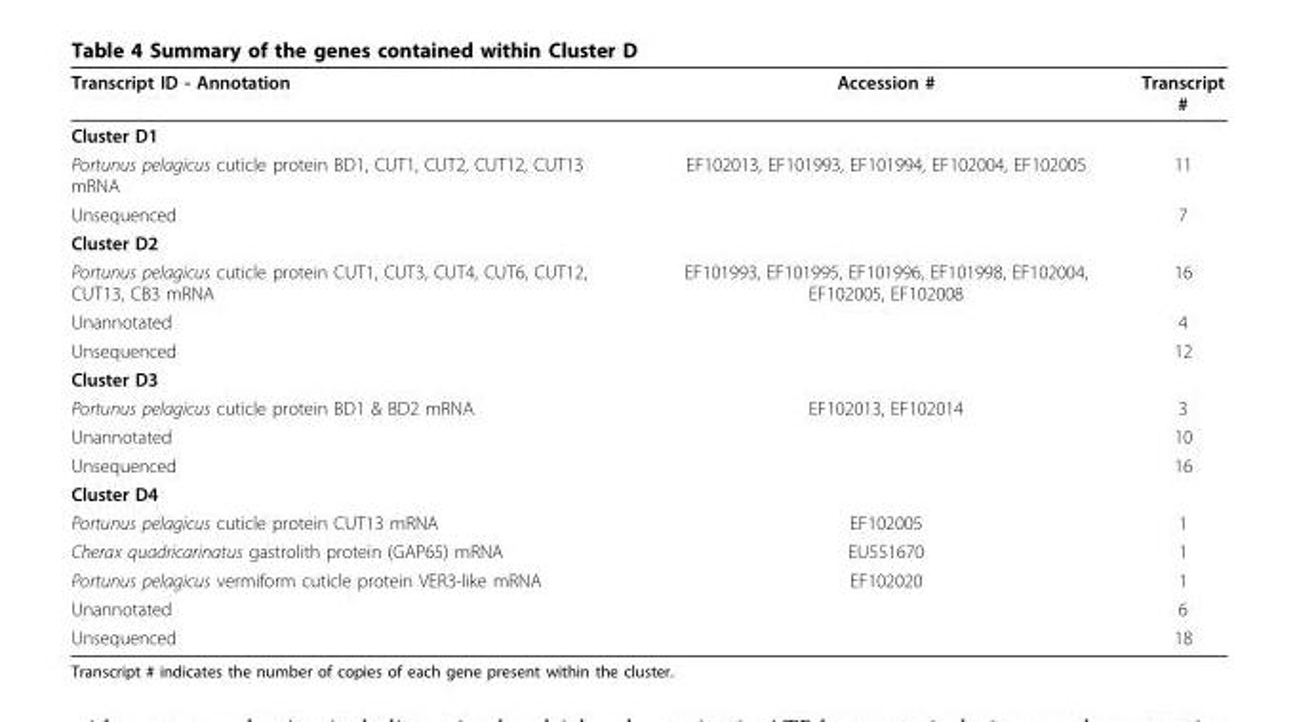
<table><thead><tr><td>Transcript ID - Annotation</td><td>Accession #</td><td>Transcript #</td></tr></thead><tbody><tr><td colspan="3">Cluster D1</td></tr><tr><td>Portunus pelagicus cuticle protein BD1, CUT1, CUT2, CUT12, CUT13 mRNA</td><td>EF102013, EF101993, EF101994, EF102004, EF102005</td><td>11</td></tr><tr><td>Unsequenced</td><td></td><td>7</td></tr><tr><td colspan="3">Cluster D2</td></tr><tr><td>Portunus pelagicus cuticle protein CUT1, CUT3, CUT4, CUT6, CUT12, CUT13, CB3 mRNA</td><td>EF101993, EF101995, EF101996, EF101998, EF102004, EF102005, EF102008</td><td>16</td></tr><tr><td>Unannotated</td><td></td><td>4</td></tr><tr><td>Unsequenced</td><td></td><td>12</td></tr><tr><td colspan="3">Cluster D3</td></tr><tr><td>Portunus pelagicus cuticle protein BD1 &amp; BD2 mRNA</td><td>EF102013, EF102014</td><td>3</td></tr><tr><td>Unannotated</td><td></td><td>10</td></tr><tr><td>Unsequenced</td><td></td><td>16</td></tr><tr><td colspan="3">Cluster D4</td></tr><tr><td>Portunus pelagicus cuticle protein CUT13 mRNA</td><td>EF102005</td><td>1</td></tr><tr><td>Cherax quadricarinatus gastrolith protein (GAP65) mRNA</td><td>EU551670</td><td>1</td></tr><tr><td>Portunus pelagicus vermiform cuticle protein VER3-like mRNA</td><td>EF102020</td><td>1</td></tr><tr><td>Unannotated</td><td></td><td>6</td></tr><tr><td>Unsequenced</td><td></td><td>18</td></tr></tbody></table>